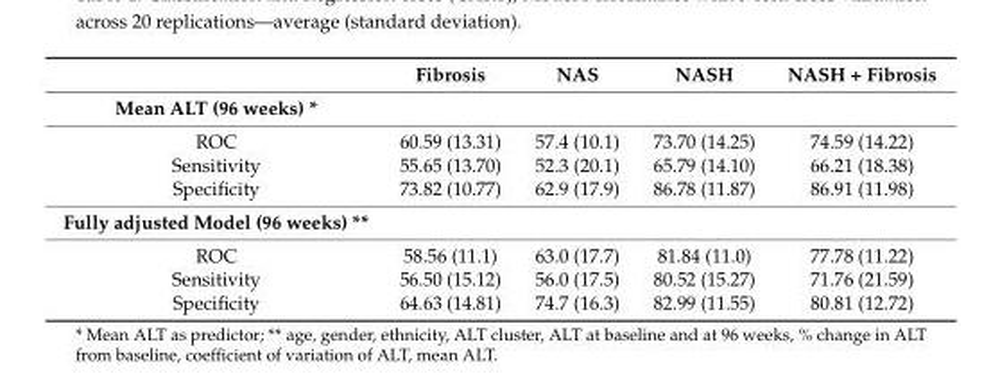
<table><thead><tr><td></td><td>Fibrosis</td><td>NAS</td><td>NASH</td><td>NASH + Fibrosis</td></tr></thead><tbody><tr><td colspan="5">Mean ALT (96 weeks) *</td></tr><tr><td>ROC</td><td>60.59 (13.31)</td><td>57.4 (10.1)</td><td>73.70 (14.25)</td><td>74.59 (14.22)</td></tr><tr><td>Sensitivity</td><td>55.65 (13.70)</td><td>52.3 (20.1)</td><td>65.79 (14.10)</td><td>66.21 (18.38)</td></tr><tr><td>Specificity</td><td>73.82 (10.77)</td><td>62.9 (17.9)</td><td>86.78 (11.87)</td><td>86.91 (11.98)</td></tr><tr><td colspan="5">Fully adjusted Model (96 weeks) **</td></tr><tr><td>ROC</td><td>58.56 (11.1)</td><td>63.0 (17.7)</td><td>81.84 (11.0)</td><td>77.78 (11.22)</td></tr><tr><td>Sensitivity</td><td>56.50 (15.12)</td><td>56.0 (17.5)</td><td>80.52 (15.27)</td><td>71.76 (21.59)</td></tr><tr><td>Specificity</td><td>64.63 (14.81)</td><td>74.7 (16.3)</td><td>82.99 (11.55)</td><td>80.81 (12.72)</td></tr></tbody></table>